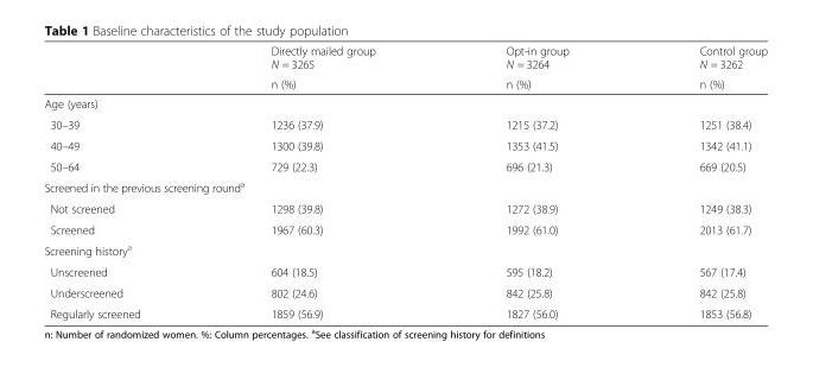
<table><thead><tr><td rowspan="2"></td><td rowspan="2">Directly mailed group N = 3265 n (%)</td><td rowspan="2">Opt-in group N = 3264 n (%)</td><td rowspan="2">Control group N = 3262 n (%)</td></tr><tr></tr></thead><tbody><tr><td colspan="4">Age (years)</td></tr><tr><td>30–39</td><td>1236 (37.9)</td><td>1215 (37.2)</td><td>1251 (38.4)</td></tr><tr><td>40–49</td><td>1300 (39.8)</td><td>1353 (41.5)</td><td>1342 (41.1)</td></tr><tr><td>50–64</td><td>729 (22.3)</td><td>696 (21.3)</td><td>669 (20.5)</td></tr><tr><td colspan="4">Screened in the previous screening round<sup>a</sup></td></tr><tr><td>Not screened</td><td>1298 (39.8)</td><td>1272 (38.9)</td><td>1249 (38.3)</td></tr><tr><td>Screened</td><td>1967 (60.3)</td><td>1992 (61.0)</td><td>2013 (61.7)</td></tr><tr><td colspan="4">Screening history<sup>a</sup></td></tr><tr><td>Unscreened</td><td>604 (18.5)</td><td>595 (18.2)</td><td>567 (17.4)</td></tr><tr><td>Underscreened</td><td>802 (24.6)</td><td>842 (25.8)</td><td>842 (25.8)</td></tr><tr><td>Regularly screened</td><td>1859 (56.9)</td><td>1827 (56.0)</td><td>1853 (56.8)</td></tr></tbody></table>